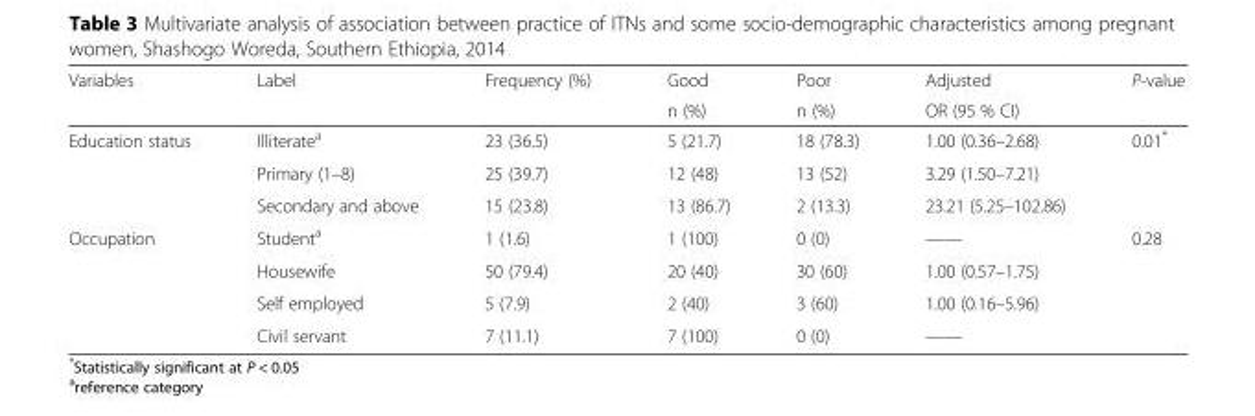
<table><thead><tr><td rowspan="2">Variables</td><td rowspan="2">Label</td><td rowspan="2">Frequency (%)</td><td rowspan="2">Good n (%)</td><td rowspan="2">Poor n (%)</td><td rowspan="2">Adjusted OR (95 % CI)</td><td rowspan="2">P-value</td></tr><tr></tr></thead><tbody><tr><td rowspan="3">Education status</td><td>Illiterate<sup>a</sup></td><td>23 (36.5)</td><td>5 (21.7)</td><td>18 (78.3)</td><td>1.00 (0.36–2.68)</td><td rowspan="3">0.01*</td></tr><tr><td>Primary (1–8)</td><td>25 (39.7)</td><td>12 (48)</td><td>13 (52)</td><td>3.29 (1.50–7.21)</td></tr><tr><td>Secondary and above</td><td>15 (23.8)</td><td>13 (86.7)</td><td>2 (13.3)</td><td>23.21 (5.25–102.86)</td></tr><tr><td rowspan="4">Occupation</td><td>Student<sup>a</sup></td><td>1 (1.6)</td><td>1 (100)</td><td>0 (0)</td><td>——</td><td rowspan="4">0.28</td></tr><tr><td>Housewife</td><td>50 (79.4)</td><td>20 (40)</td><td>30 (60)</td><td>1.00 (0.57–1.75)</td></tr><tr><td>Self employed</td><td>5 (7.9)</td><td>2 (40)</td><td>3 (60)</td><td>1.00 (0.16–5.96)</td></tr><tr><td>Civil servant</td><td>7 (11.1)</td><td>7 (100)</td><td>0 (0)</td><td>——</td></tr></tbody></table>